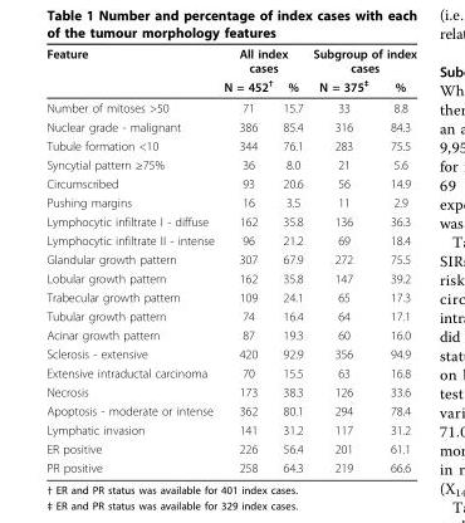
<table><thead><tr><td rowspan="2">Feature</td><td colspan="2">All index cases</td><td colspan="2">Subgroup of index cases</td></tr><tr><td>N = 452<sup>†</sup></td><td>%</td><td>N = 375<sup>‡</sup></td><td>%</td></tr></thead><tbody><tr><td>Number of mitoses &gt;50</td><td>71</td><td>15.7</td><td>33</td><td>8.8</td></tr><tr><td>Nuclear grade - malignant</td><td>386</td><td>85.4</td><td>316</td><td>84.3</td></tr><tr><td>Tubule formation &lt;10</td><td>344</td><td>76.1</td><td>283</td><td>75.5</td></tr><tr><td>Syncytial pattern ≥75%</td><td>36</td><td>8.0</td><td>21</td><td>5.6</td></tr><tr><td>Circumscribed</td><td>93</td><td>20.6</td><td>56</td><td>14.9</td></tr><tr><td>Pushing margins</td><td>16</td><td>3.5</td><td>11</td><td>2.9</td></tr><tr><td>Lymphocytic infiltrate I - diffuse</td><td>162</td><td>35.8</td><td>136</td><td>36.3</td></tr><tr><td>Lymphocytic infiltrate II - intense</td><td>96</td><td>21.2</td><td>69</td><td>18.4</td></tr><tr><td>Glandular growth pattern</td><td>307</td><td>67.9</td><td>272</td><td>75.5</td></tr><tr><td>Lobular growth pattern</td><td>162</td><td>35.8</td><td>147</td><td>39.2</td></tr><tr><td>Trabecular growth pattern</td><td>109</td><td>24.1</td><td>65</td><td>17.3</td></tr><tr><td>Tubular growth pattern</td><td>74</td><td>16.4</td><td>64</td><td>17.1</td></tr><tr><td>Acinar growth pattern</td><td>87</td><td>19.3</td><td>60</td><td>16.0</td></tr><tr><td>Sclerosis - extensive</td><td>420</td><td>92.9</td><td>356</td><td>94.9</td></tr><tr><td>Extensive intraductal carcinoma</td><td>70</td><td>15.5</td><td>63</td><td>16.8</td></tr><tr><td>Necrosis</td><td>173</td><td>38.3</td><td>126</td><td>33.6</td></tr><tr><td>Apoptosis - moderate or intense</td><td>362</td><td>80.1</td><td>294</td><td>78.4</td></tr><tr><td>Lymphatic invasion</td><td>141</td><td>31.2</td><td>117</td><td>31.2</td></tr><tr><td>ER positive</td><td>226</td><td>56.4</td><td>201</td><td>61.1</td></tr><tr><td>PR positive</td><td>258</td><td>64.3</td><td>219</td><td>66.6</td></tr></tbody></table>